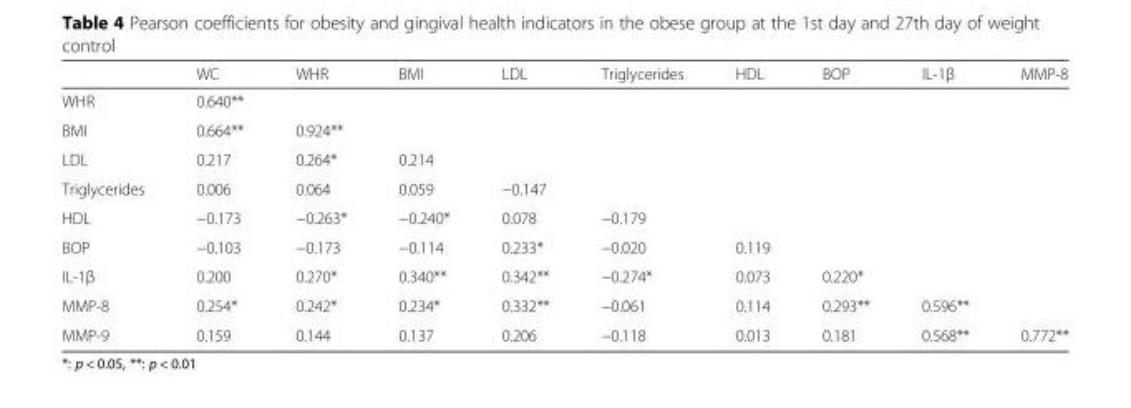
<table><thead><tr><td></td><td>WC</td><td>WHR</td><td>BMI</td><td>LDL</td><td>Triglycerides</td><td>HDL</td><td>BOP</td><td>IL-1β</td><td>MMP-8</td></tr></thead><tbody><tr><td>WHR</td><td>0.640**</td><td></td><td></td><td></td><td></td><td></td><td></td><td></td><td></td></tr><tr><td>BMI</td><td>0.664**</td><td>0.924**</td><td></td><td></td><td></td><td></td><td></td><td></td><td></td></tr><tr><td>LDL</td><td>0.217</td><td>0.264*</td><td>0.214</td><td></td><td></td><td></td><td></td><td></td><td></td></tr><tr><td>Triglycerides</td><td>0.006</td><td>0.064</td><td>0.059</td><td>−0.147</td><td></td><td></td><td></td><td></td><td></td></tr><tr><td>HDL</td><td>−0.173</td><td>−0.263*</td><td>−0.240*</td><td>0.078</td><td>−0.179</td><td></td><td></td><td></td><td></td></tr><tr><td>BOP</td><td>−0.103</td><td>−0.173</td><td>−0.114</td><td>0.233*</td><td>−0.020</td><td>0.119</td><td></td><td></td><td></td></tr><tr><td>IL-1β</td><td>0.200</td><td>0.270*</td><td>0.340**</td><td>0.342**</td><td>−0.274*</td><td>0.073</td><td>0.220*</td><td></td><td></td></tr><tr><td>MMP-8</td><td>0.254*</td><td>0.242*</td><td>0.234*</td><td>0.332**</td><td>−0.061</td><td>0.114</td><td>0.293**</td><td>0.596**</td><td></td></tr><tr><td>MMP-9</td><td>0.159</td><td>0.144</td><td>0.137</td><td>0.206</td><td>−0.118</td><td>0.013</td><td>0.181</td><td>0.568**</td><td>0.772**</td></tr></tbody></table>